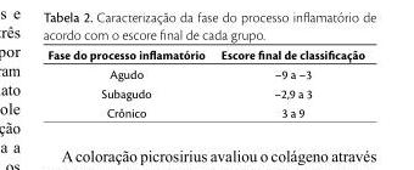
<table><thead><tr><td>Fase do processo inflamatório</td><td>Escore final de classificação</td></tr></thead><tbody><tr><td>Agudo</td><td>–9 a –3</td></tr><tr><td>Subagudo</td><td>–2,9 a 3</td></tr><tr><td>Crônico</td><td>3 a 9</td></tr></tbody></table>